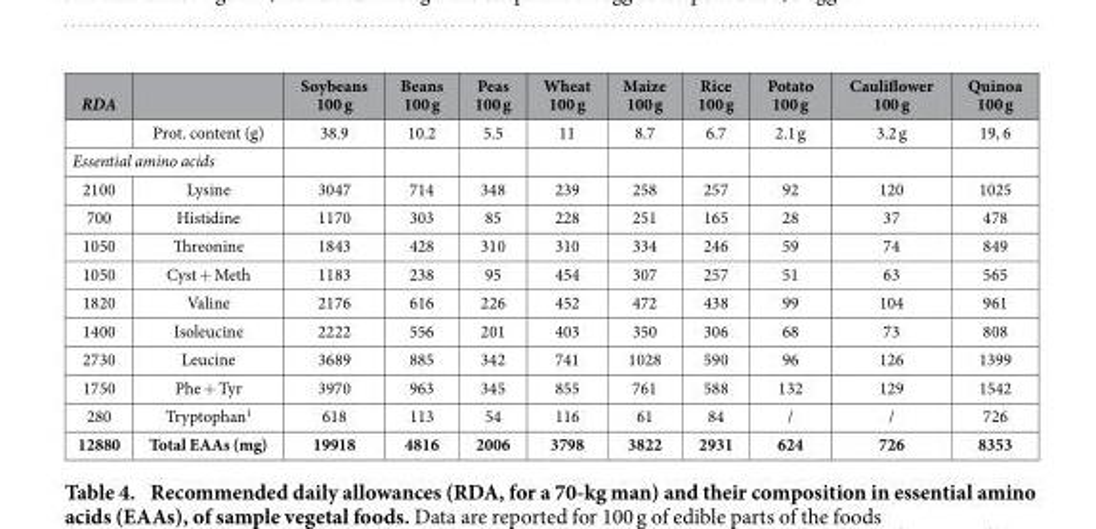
<table><thead><tr><td>RDA</td><td></td><td>Soybeans 100 g</td><td>Beans 100 g</td><td>Peas 100 g</td><td>Wheat 100 g</td><td>Maize 100 g</td><td>Rice 100 g</td><td>Potato 100 g</td><td>Cauliflower 100 g</td><td>Quinoa 100 g</td></tr></thead><tbody><tr><td></td><td>Prot. content (g)</td><td>38.9</td><td>10.2</td><td>5.5</td><td>11</td><td>8.7</td><td>6.7</td><td>2.1 g</td><td>3.2 g</td><td>19, 6</td></tr><tr><td colspan="11">Essential amino acids</td></tr><tr><td>2100</td><td>Lysine</td><td>3047</td><td>714</td><td>348</td><td>239</td><td>258</td><td>257</td><td>92</td><td>120</td><td>1025</td></tr><tr><td>700</td><td>Histidine</td><td>1170</td><td>303</td><td>85</td><td>228</td><td>251</td><td>165</td><td>28</td><td>37</td><td>478</td></tr><tr><td>1050</td><td>Threonine</td><td>1843</td><td>428</td><td>310</td><td>310</td><td>334</td><td>246</td><td>59</td><td>74</td><td>849</td></tr><tr><td>1050</td><td>Cyst + Meth</td><td>1183</td><td>238</td><td>95</td><td>454</td><td>307</td><td>257</td><td>51</td><td>63</td><td>565</td></tr><tr><td>1820</td><td>Valine</td><td>2176</td><td>616</td><td>226</td><td>452</td><td>472</td><td>438</td><td>99</td><td>104</td><td>961</td></tr><tr><td>1400</td><td>Isoleucine</td><td>2222</td><td>556</td><td>201</td><td>403</td><td>350</td><td>306</td><td>68</td><td>73</td><td>808</td></tr><tr><td>2730</td><td>Leucine</td><td>3689</td><td>885</td><td>342</td><td>741</td><td>1028</td><td>590</td><td>96</td><td>126</td><td>1399</td></tr><tr><td>1750</td><td>Phe + Tyr</td><td>3970</td><td>963</td><td>345</td><td>855</td><td>761</td><td>588</td><td>132</td><td>129</td><td>1542</td></tr><tr><td>280</td><td>Tryptophan<sup>1</sup></td><td>618</td><td>113</td><td>54</td><td>116</td><td>61</td><td>84</td><td>/</td><td>/</td><td>726</td></tr><tr><td>12880</td><td>Total EAAs (mg)</td><td>19918</td><td>4816</td><td>2006</td><td>3798</td><td>3822</td><td>2931</td><td>624</td><td>726</td><td>8353</td></tr></tbody></table>